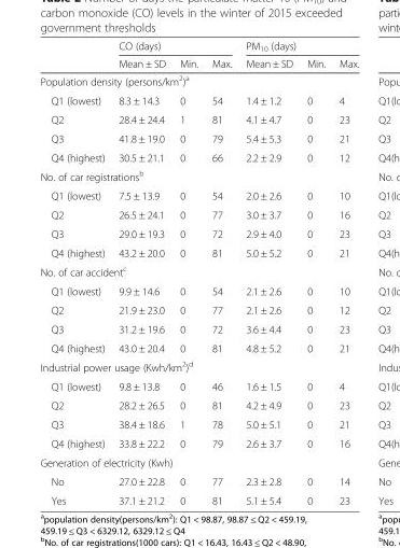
<table><thead><tr><td rowspan="2"></td><td colspan="3">CO (days)</td><td colspan="3">PM<sub>10</sub> (days)</td></tr><tr><td>Mean ± SD</td><td>Min.</td><td>Max.</td><td>Mean ± SD</td><td>Min.</td><td>Max.</td></tr></thead><tbody><tr><td colspan="7">Population density (persons/km<sup>2</sup>)<sup>a</sup></td></tr><tr><td>Q1 (lowest)</td><td>8.3 ± 14.3</td><td>0</td><td>54</td><td>1.4 ± 1.2</td><td>0</td><td>4</td></tr><tr><td>Q2</td><td>28.4 ± 24.4</td><td>1</td><td>81</td><td>4.1 ± 4.7</td><td>0</td><td>23</td></tr><tr><td>Q3</td><td>41.8 ± 19.0</td><td>0</td><td>79</td><td>5.4 ± 5.3</td><td>0</td><td>21</td></tr><tr><td>Q4 (highest)</td><td>30.5 ± 21.1</td><td>0</td><td>66</td><td>2.2 ± 2.9</td><td>0</td><td>12</td></tr><tr><td colspan="7">No. of car registrations<sup>b</sup></td></tr><tr><td>Q1 (lowest)</td><td>7.5 ± 13.9</td><td>0</td><td>54</td><td>2.0 ± 2.6</td><td>0</td><td>10</td></tr><tr><td>Q2</td><td>26.5 ± 24.1</td><td>0</td><td>77</td><td>3.0 ± 3.7</td><td>0</td><td>16</td></tr><tr><td>Q3</td><td>29.0 ± 19.3</td><td>0</td><td>72</td><td>2.9 ± 4.0</td><td>0</td><td>23</td></tr><tr><td>Q4 (highest)</td><td>43.2 ± 20.0</td><td>0</td><td>81</td><td>5.0 ± 5.2</td><td>0</td><td>21</td></tr><tr><td colspan="7">No. of car accident<sup>c</sup></td></tr><tr><td>Q1 (lowest)</td><td>9.9 ± 14.6</td><td>0</td><td>54</td><td>2.1 ± 2.6</td><td>0</td><td>10</td></tr><tr><td>Q2</td><td>21.9 ± 23.0</td><td>0</td><td>77</td><td>2.1 ± 2.6</td><td>0</td><td>12</td></tr><tr><td>Q3</td><td>31.2 ± 19.6</td><td>0</td><td>72</td><td>3.6 ± 4.4</td><td>0</td><td>23</td></tr><tr><td>Q4 (highest)</td><td>43.0 ± 20.4</td><td>0</td><td>81</td><td>4.8 ± 5.2</td><td>0</td><td>21</td></tr><tr><td colspan="7">Industrial power usage (Kwh/km<sup>2</sup>)<sup>d</sup></td></tr><tr><td>Q1 (lowest)</td><td>9.8 ± 13.8</td><td>0</td><td>46</td><td>1.6 ± 1.5</td><td>0</td><td>4</td></tr><tr><td>Q2</td><td>28.2 ± 26.5</td><td>0</td><td>81</td><td>4.2 ± 4.9</td><td>0</td><td>23</td></tr><tr><td>Q3</td><td>38.4 ± 18.6</td><td>1</td><td>78</td><td>5.0 ± 5.1</td><td>0</td><td>21</td></tr><tr><td>Q4 (highest)</td><td>33.8 ± 22.2</td><td>0</td><td>79</td><td>2.6 ± 3.7</td><td>0</td><td>16</td></tr><tr><td colspan="7">Generation of electricity (Kwh)</td></tr><tr><td>No</td><td>27.0 ± 22.8</td><td>0</td><td>77</td><td>2.3 ± 2.8</td><td>0</td><td>14</td></tr><tr><td>Yes</td><td>37.1 ± 21.2</td><td>0</td><td>81</td><td>5.1 ± 5.4</td><td>0</td><td>23</td></tr></tbody></table>